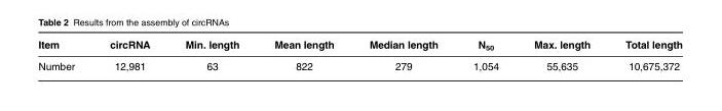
<table><thead><tr><td>Item</td><td>circRNA</td><td>Min. length</td><td>Mean length</td><td>Median length</td><td>N50</td><td>Max. length</td><td>Total length</td></tr></thead><tbody><tr><td>Number</td><td>12,981</td><td>63</td><td>822</td><td>279</td><td>1,054</td><td>55,635</td><td>10,675,372</td></tr></tbody></table>